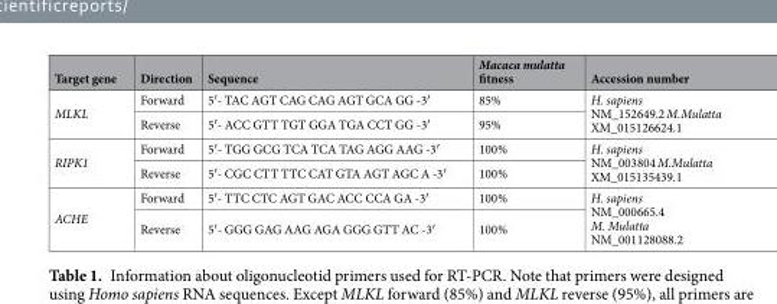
<table><thead><tr><td>Target gene</td><td>Direction</td><td>Sequence</td><td>Macaca mulatta fitness</td><td>Accession number</td></tr></thead><tbody><tr><td rowspan="2">MLKL</td><td>Forward</td><td>5′- TAC AGT CAG CAG AGT GCA GG -3′</td><td>85%</td><td rowspan="2">H. sapiens NM_152649.2 M.Mulatta XM_015126624.1</td></tr><tr><td>Reverse</td><td>5′- ACC GTT TGT GGA TGA CCT GG -3′</td><td>95%</td></tr><tr><td rowspan="2">RIPK1</td><td>Forward</td><td>5′- TGG GCG TCA TCA TAG AGG AAG -3′</td><td>100%</td><td rowspan="2">H. sapiens NM_003804 M.Mulatta XM_015135439.1</td></tr><tr><td>Reverse</td><td>5′- CGC CTT TTC CAT GTA AGT AGC A -3′</td><td>100%</td></tr><tr><td rowspan="2">ACHE</td><td>Forward</td><td>5′- TTC CTC AGT GAC ACC CCA GA -3′</td><td>100%</td><td rowspan="2">H. sapiens NM_000665.4 M. Mulatta NM_001128088.2</td></tr><tr><td>Reverse</td><td>5′- GGG GAG AAG AGA GGG GTT AC -3′</td><td>100%</td></tr></tbody></table>